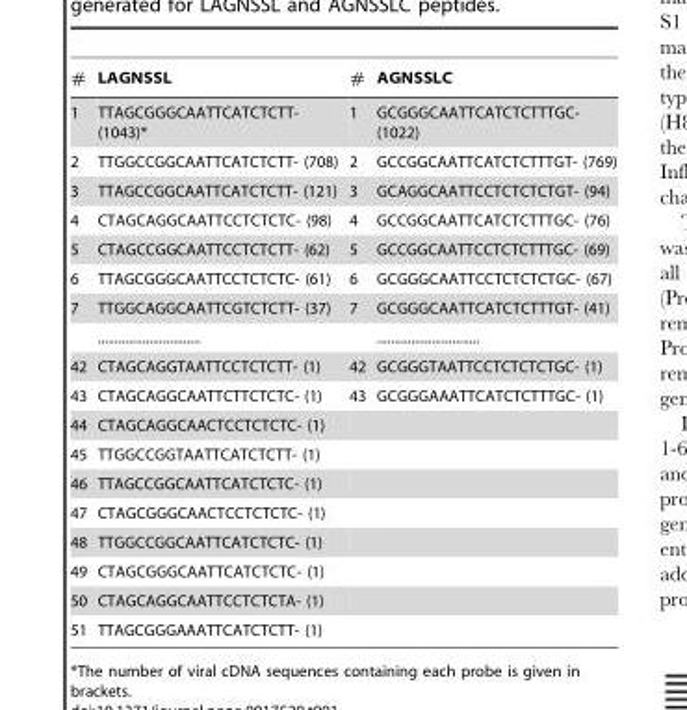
<table><thead><tr><td>#</td><td>LAGNSSL</td><td>#</td><td>AGNSSLC</td></tr></thead><tbody><tr><td>1</td><td>TTAGCGGGCAATTCATCTCTT- (1043)*</td><td>1</td><td>GCGGGCAATTCATCTCTTTGC- (1022)</td></tr><tr><td>2</td><td>TTGGCCGGCAATTCATCTCTT- (708)</td><td>2</td><td>GCCGGCAATTCATCTCTTTGT- (769)</td></tr><tr><td>3</td><td>TTAGCCGGCAATTCATCTCTT- (121)</td><td>3</td><td>GCAGGCAATTCCTCTCTCTGT- (94)</td></tr><tr><td>4</td><td>CTAGCAGGCAATTCCTCTCTC- (98)</td><td>4</td><td>GCCGGCAATTCATCTCTTTGC- (76)</td></tr><tr><td>5</td><td>CTAGCCGGCAATTCCTCTCTT- (62)</td><td>5</td><td>GCCGGCAATTCCTCTCTTTGC- (69)</td></tr><tr><td>6</td><td>TTAGCGGGCAATTCCTCTCTC- (61)</td><td>6</td><td>GCGGGCAATTCCTCTCTCTGC- (67)</td></tr><tr><td rowspan="2">7</td><td>TTGGCAGGCAATTCGTCTCTT- (37)</td><td>7</td><td>GCGGGCAATTCATCTCTTTGT- (41)</td></tr><tr><td>..............................</td><td></td><td>..............................</td></tr><tr><td>42</td><td>CTAGCAGGTAATTCCTCTCTT- (1)</td><td>42</td><td>GCGGGTAATTCCTCTCTCTGC- (1)</td></tr><tr><td>43</td><td>CTAGCAGGCAATTCTTCTCTC- (1)</td><td>43</td><td>GCGGGAAATTCATCTCTTTGC- (1)</td></tr><tr><td>44</td><td>CTAGCAGGCAACTCCTCTCTC- (1)</td><td></td><td></td></tr><tr><td>45</td><td>TTGGCCGGTAATTCATCTCTT- (1)</td><td></td><td></td></tr><tr><td>46</td><td>TTAGCCGGCAATTCATCTCTC- (1)</td><td></td><td></td></tr><tr><td>47</td><td>CTAGCGGGCAACTCCTCTCTC- (1)</td><td></td><td></td></tr><tr><td>48</td><td>TTGGCCGGCAATTCATCTCTC- (1)</td><td></td><td></td></tr><tr><td>49</td><td>CTAGCGGGCAATTCATCTCTC- (1)</td><td></td><td></td></tr><tr><td>50</td><td>CTAGCAGGCAATTCCTCTCTA- (1)</td><td></td><td></td></tr><tr><td>51</td><td>TTAGCGGGAAATTCATCTCTT- (1)</td><td></td><td></td></tr></tbody></table>